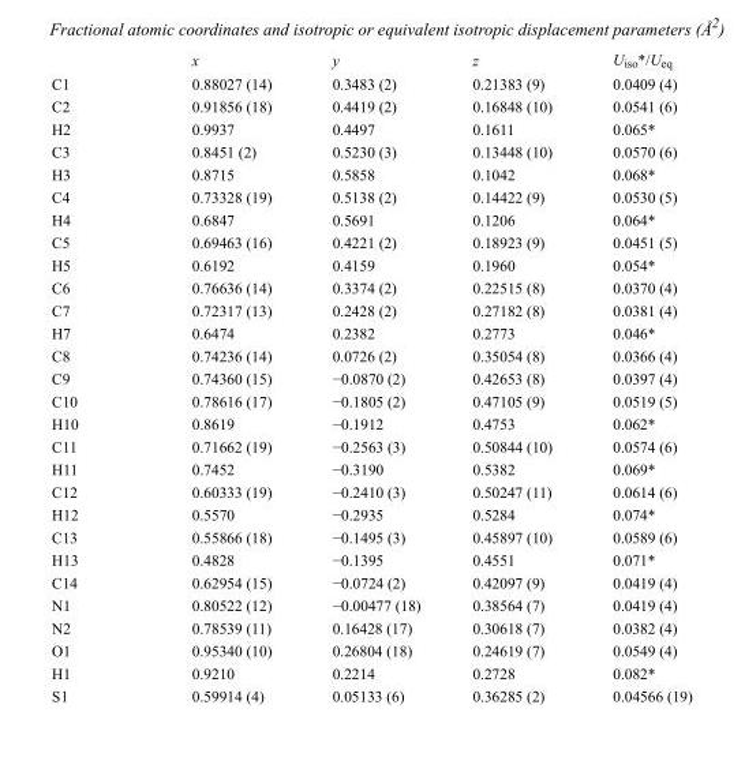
<table><thead><tr><td></td><td>x</td><td>y</td><td>z</td><td>U<sub>iso</sub>*/U<sub>eq</sub></td></tr></thead><tbody><tr><td>C1</td><td>0.88027 (14)</td><td>0.3483 (2)</td><td>0.21383 (9)</td><td>0.0409 (4)</td></tr><tr><td>C2</td><td>0.91856 (18)</td><td>0.4419 (2)</td><td>0.16848 (10)</td><td>0.0541 (6)</td></tr><tr><td>H2</td><td>0.9937</td><td>0.4497</td><td>0.1611</td><td>0.065*</td></tr><tr><td>C3</td><td>0.8451 (2)</td><td>0.5230 (3)</td><td>0.13448 (10)</td><td>0.0570 (6)</td></tr><tr><td>H3</td><td>0.8715</td><td>0.5858</td><td>0.1042</td><td>0.068*</td></tr><tr><td>C4</td><td>0.73328 (19)</td><td>0.5138 (2)</td><td>0.14422 (9)</td><td>0.0530 (5)</td></tr><tr><td>H4</td><td>0.6847</td><td>0.5691</td><td>0.1206</td><td>0.064*</td></tr><tr><td>C5</td><td>0.69463 (16)</td><td>0.4221 (2)</td><td>0.18923 (9)</td><td>0.0451 (5)</td></tr><tr><td>H5</td><td>0.6192</td><td>0.4159</td><td>0.1960</td><td>0.054*</td></tr><tr><td>C6</td><td>0.76636 (14)</td><td>0.3374 (2)</td><td>0.22515 (8)</td><td>0.0370 (4)</td></tr><tr><td>C7</td><td>0.72317 (13)</td><td>0.2428 (2)</td><td>0.27182 (8)</td><td>0.0381 (4)</td></tr><tr><td>H7</td><td>0.6474</td><td>0.2382</td><td>0.2773</td><td>0.046*</td></tr><tr><td>C8</td><td>0.74236 (14)</td><td>0.0726 (2)</td><td>0.35054 (8)</td><td>0.0366 (4)</td></tr><tr><td>C9</td><td>0.74360 (15)</td><td>−0.0870 (2)</td><td>0.42653 (8)</td><td>0.0397 (4)</td></tr><tr><td>C10</td><td>0.78616 (17)</td><td>−0.1805 (2)</td><td>0.47105 (9)</td><td>0.0519 (5)</td></tr><tr><td>H10</td><td>0.8619</td><td>−0.1912</td><td>0.4753</td><td>0.062*</td></tr><tr><td>C11</td><td>0.71662 (19)</td><td>−0.2563 (3)</td><td>0.50844 (10)</td><td>0.0574 (6)</td></tr><tr><td>H11</td><td>0.7452</td><td>−0.3190</td><td>0.5382</td><td>0.069*</td></tr><tr><td>C12</td><td>0.60333 (19)</td><td>−0.2410 (3)</td><td>0.50247 (11)</td><td>0.0614 (6)</td></tr><tr><td>H12</td><td>0.5570</td><td>−0.2935</td><td>0.5284</td><td>0.074*</td></tr><tr><td>C13</td><td>0.55866 (18)</td><td>−0.1495 (3)</td><td>0.45897 (10)</td><td>0.0589 (6)</td></tr><tr><td>H13</td><td>0.4828</td><td>−0.1395</td><td>0.4551</td><td>0.071*</td></tr><tr><td>C14</td><td>0.62954 (15)</td><td>−0.0724 (2)</td><td>0.42097 (9)</td><td>0.0419 (4)</td></tr><tr><td>N1</td><td>0.80522 (12)</td><td>−0.00477 (18)</td><td>0.38564 (7)</td><td>0.0419 (4)</td></tr><tr><td>N2</td><td>0.78539 (11)</td><td>0.16428 (17)</td><td>0.30618 (7)</td><td>0.0382 (4)</td></tr><tr><td>O1</td><td>0.95340 (10)</td><td>0.26804 (18)</td><td>0.24619 (7)</td><td>0.0549 (4)</td></tr><tr><td>H1</td><td>0.9210</td><td>0.2214</td><td>0.2728</td><td>0.082*</td></tr><tr><td>S1</td><td>0.59914 (4)</td><td>0.05133 (6)</td><td>0.36285 (2)</td><td>0.04566 (19)</td></tr></tbody></table>